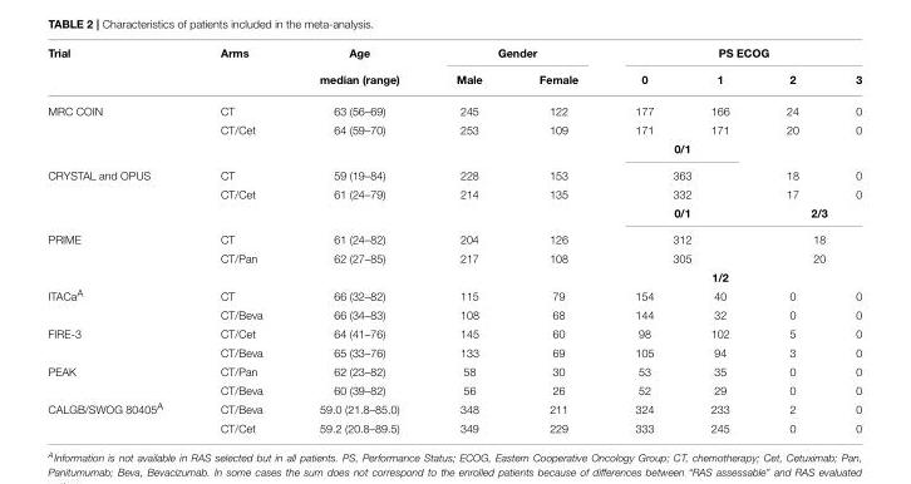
<table><thead><tr><td rowspan="2">Trial</td><td rowspan="2">Arms</td><td rowspan="2">Age median (range)</td><td colspan="2">Gender</td><td colspan="4">PS ECOG</td></tr><tr><td>Male</td><td>Female</td><td>0</td><td>1</td><td>2</td><td>3</td></tr></thead><tbody><tr><td rowspan="3">MRC COIN</td><td>CT</td><td>63 (56–69)</td><td>245</td><td>122</td><td>177</td><td>166</td><td>24</td><td>0</td></tr><tr><td>CT/Cet</td><td>64 (59–70)</td><td>253</td><td>109</td><td>171</td><td>171</td><td>20</td><td>0</td></tr><tr><td></td><td></td><td></td><td></td><td colspan="2">0/1</td><td></td><td></td></tr><tr><td rowspan="3">CRYSTAL and OPUS</td><td>CT</td><td>59 (19–84)</td><td>228</td><td>153</td><td colspan="2">363</td><td>18</td><td>0</td></tr><tr><td>CT/Cet</td><td>61 (24–79)</td><td>214</td><td>135</td><td colspan="2">332</td><td>17</td><td>0</td></tr><tr><td></td><td></td><td></td><td></td><td colspan="2">0/1</td><td colspan="2">2/3</td></tr><tr><td rowspan="3">PRIME</td><td>CT</td><td>61 (24–82)</td><td>204</td><td>126</td><td colspan="2">312</td><td colspan="2">18</td></tr><tr><td>CT/Pan</td><td>62 (27–85)</td><td>217</td><td>108</td><td colspan="2">305</td><td colspan="2">20</td></tr><tr><td></td><td></td><td></td><td></td><td></td><td>1/2</td><td></td><td></td></tr><tr><td rowspan="2">ITACa<sup>A</sup></td><td>CT</td><td>66 (32–82)</td><td>115</td><td>79</td><td>154</td><td>40</td><td>0</td><td>0</td></tr><tr><td>CT/Beva</td><td>66 (34–83)</td><td>108</td><td>68</td><td>144</td><td>32</td><td>0</td><td>0</td></tr><tr><td rowspan="2">FIRE-3</td><td>CT/Cet</td><td>64 (41–76)</td><td>145</td><td>60</td><td>98</td><td>102</td><td>5</td><td>0</td></tr><tr><td>CT/Beva</td><td>65 (33–76)</td><td>133</td><td>69</td><td>105</td><td>94</td><td>3</td><td>0</td></tr><tr><td rowspan="2">PEAK</td><td>CT/Pan</td><td>62 (23–82)</td><td>58</td><td>30</td><td>53</td><td>35</td><td>0</td><td>0</td></tr><tr><td>CT/Beva</td><td>60 (39–82)</td><td>56</td><td>26</td><td>52</td><td>29</td><td>0</td><td>0</td></tr><tr><td rowspan="2">CALGB/SWOG 80405<sup>A</sup></td><td>CT/Beva</td><td>59.0 (21.8–85.0)</td><td>348</td><td>211</td><td>324</td><td>233</td><td>2</td><td>0</td></tr><tr><td>CT/Cet</td><td>59.2 (20.8–89.5)</td><td>349</td><td>229</td><td>333</td><td>245</td><td>0</td><td>0</td></tr></tbody></table>